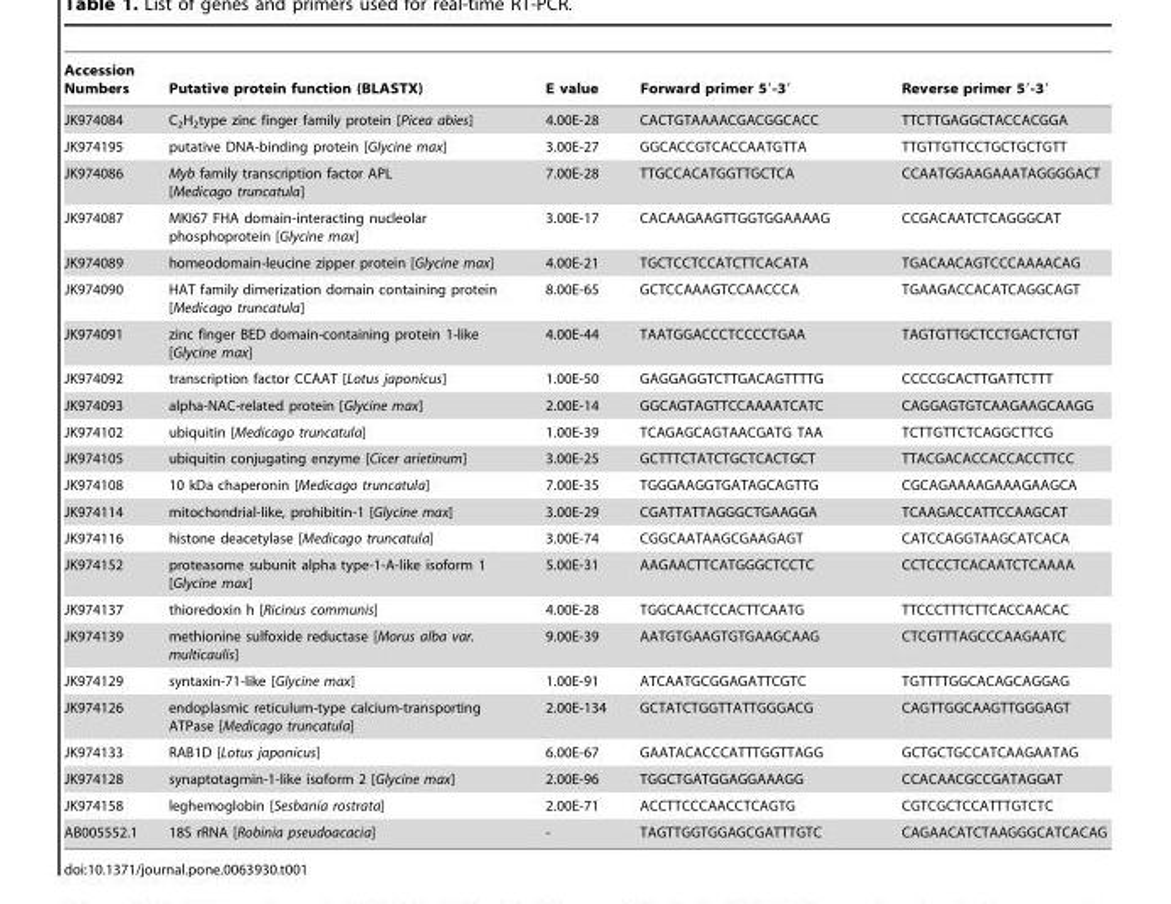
<table><thead><tr><td>Accession Numbers</td><td>Putative protein function (BLASTX)</td><td>E value</td><td>Forward primer 5′-3′</td><td>Reverse primer 5′-3′</td></tr></thead><tbody><tr><td>JK974084</td><td>C<sub>2</sub>H<sub>2</sub>type zinc finger family protein [Picea abies]</td><td>4.00E-28</td><td>CACTGTAAAACGACGGCACC</td><td>TTCTTGAGGCTACCACGGA</td></tr><tr><td>JK974195</td><td>putative DNA-binding protein [Glycine max]</td><td>3.00E-27</td><td>GGCACCGTCACCAATGTTA</td><td>TTGTTGTTCCTGCTGCTGTT</td></tr><tr><td>JK974086</td><td>Myb family transcription factor APL [Medicago truncatula]</td><td>7.00E-28</td><td>TTGCCACATGGTTGCTCA</td><td>CCAATGGAAGAAATAGGGGACT</td></tr><tr><td>JK974087</td><td>MKI67 FHA domain-interacting nucleolar phosphoprotein [Glycine max]</td><td>3.00E-17</td><td>CACAAGAAGTTGGTGGAAAAG</td><td>CCGACAATCTCAGGGCAT</td></tr><tr><td>JK974089</td><td>homeodomain-leucine zipper protein [Glycine max]</td><td>4.00E-21</td><td>TGCTCCTCCATCTTCACATA</td><td>TGACAACAGTCCCAAAACAG</td></tr><tr><td>JK974090</td><td>HAT family dimerization domain containing protein [Medicago truncatula]</td><td>8.00E-65</td><td>GCTCCAAAGTCCAACCCA</td><td>TGAAGACCACATCAGGCAGT</td></tr><tr><td>JK974091</td><td>zinc finger BED domain-containing protein 1-like [Glycine max]</td><td>4.00E-44</td><td>TAATGGACCCTCCCCTGAA</td><td>TAGTGTTGCTCCTGACTCTGT</td></tr><tr><td>JK974092</td><td>transcription factor CCAAT [Lotus japonicus]</td><td>1.00E-50</td><td>GAGGAGGTCTTGACAGTTTTG</td><td>CCCCGCACTTGATTCTTT</td></tr><tr><td>JK974093</td><td>alpha-NAC-related protein [Glycine max]</td><td>2.00E-14</td><td>GGCAGTAGTTCCAAAATCATC</td><td>CAGGAGTGTCAAGAAGCAAGG</td></tr><tr><td>JK974102</td><td>ubiquitin [Medicago truncatula]</td><td>1.00E-39</td><td>TCAGAGCAGTAACGATG TAA</td><td>TCTTGTTCTCAGGCTTCG</td></tr><tr><td>JK974105</td><td>ubiquitin conjugating enzyme [Cicer arietinum]</td><td>3.00E-25</td><td>GCTTTCTATCTGCTCACTGCT</td><td>TTACGACACCACCACCTTCC</td></tr><tr><td>JK974108</td><td>10 kDa chaperonin [Medicago truncatula]</td><td>7.00E-35</td><td>TGGGAAGGTGATAGCAGTTG</td><td>CGCAGAAAAGAAAGAAGCA</td></tr><tr><td>JK974114</td><td>mitochondrial-like, prohibitin-1 [Glycine max]</td><td>3.00E-29</td><td>CGATTATTAGGGCTGAAGGA</td><td>TCAAGACCATTCCAAGCAT</td></tr><tr><td>JK974116</td><td>histone deacetylase [Medicago truncatula]</td><td>3.00E-74</td><td>CGGCAATAAGCGAAGAGT</td><td>CATCCAGGTAAGCATCACA</td></tr><tr><td>JK974152</td><td>proteasome subunit alpha type-1-A-like isoform 1 [Glycine max]</td><td>5.00E-31</td><td>AAGAACTTCATGGGCTCCTC</td><td>CCTCCCTCACAATCTCAAAA</td></tr><tr><td>JK974137</td><td>thioredoxin h [Ricinus communis]</td><td>4.00E-28</td><td>TGGCAACTCCACTTCAATG</td><td>TTCCCTTTCTTCACCAACAC</td></tr><tr><td>JK974139</td><td>methionine sulfoxide reductase [Morus alba var. multicaulis]</td><td>9.00E-39</td><td>AATGTGAAGTGTGAAGCAAG</td><td>CTCGTTTAGCCCAAGAATC</td></tr><tr><td>JK974129</td><td>syntaxin-71-like [Glycine max]</td><td>1.00E-91</td><td>ATCAATGCGGAGATTCGTC</td><td>TGTTTTGGCACAGCAGGAG</td></tr><tr><td>JK974126</td><td>endoplasmic reticulum-type calcium-transporting ATPase [Medicago truncatula]</td><td>2.00E-134</td><td>GCTATCTGGTTATTGGGACG</td><td>CAGTTGGCAAGTTGGGAGT</td></tr><tr><td>JK974133</td><td>RAB1D [Lotus japonicus]</td><td>6.00E-67</td><td>GAATACACCCATTTGGTTAGG</td><td>GCTGCTGCCATCAAGAATAG</td></tr><tr><td>JK974128</td><td>synaptotagmin-1-like isoform 2 [Glycine max]</td><td>2.00E-96</td><td>TGGCTGATGGAGGAAAGG</td><td>CCACAACGCCGATAGGAT</td></tr><tr><td>JK974158</td><td>leghemoglobin [Sesbania rostrata]</td><td>2.00E-71</td><td>ACCTTCCCAACCTCAGTG</td><td>CGTCGCTCCATTTGTCTC</td></tr><tr><td>AB005552.1</td><td>18S rRNA [Robinia pseudoacacia]</td><td>-</td><td>TAGTTGGTGGAGCGATTTGTC</td><td>CAGAACATCTAAGGGCATCACAG</td></tr></tbody></table>